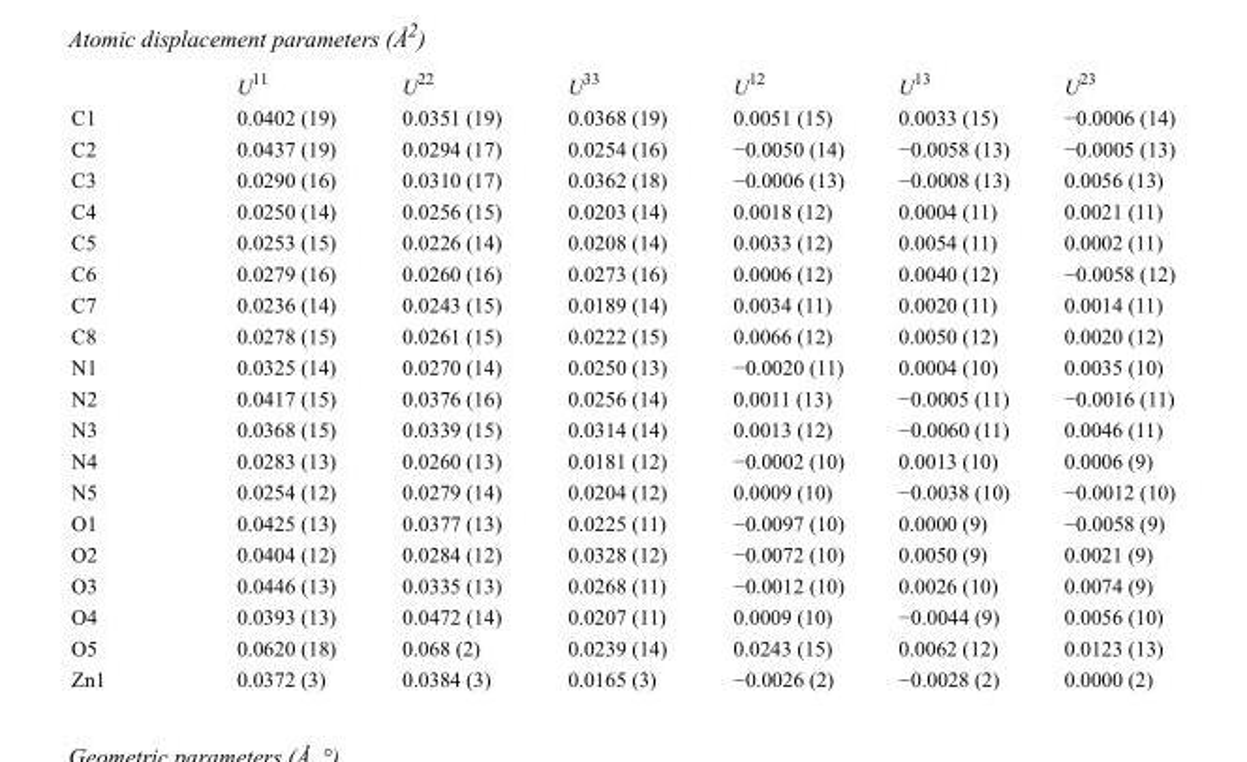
<table><thead><tr><td></td><td>U<sup>11</sup></td><td>U<sup>22</sup></td><td>U<sup>33</sup></td><td>U<sup>12</sup></td><td>U<sup>13</sup></td><td>U<sup>23</sup></td></tr></thead><tbody><tr><td>C1</td><td>0.0402 (19)</td><td>0.0351 (19)</td><td>0.0368 (19)</td><td>0.0051 (15)</td><td>0.0033 (15)</td><td>−0.0006 (14)</td></tr><tr><td>C2</td><td>0.0437 (19)</td><td>0.0294 (17)</td><td>0.0254 (16)</td><td>−0.0050 (14)</td><td>−0.0058 (13)</td><td>−0.0005 (13)</td></tr><tr><td>C3</td><td>0.0290 (16)</td><td>0.0310 (17)</td><td>0.0362 (18)</td><td>−0.0006 (13)</td><td>−0.0008 (13)</td><td>0.0056 (13)</td></tr><tr><td>C4</td><td>0.0250 (14)</td><td>0.0256 (15)</td><td>0.0203 (14)</td><td>0.0018 (12)</td><td>0.0004 (11)</td><td>0.0021 (11)</td></tr><tr><td>C5</td><td>0.0253 (15)</td><td>0.0226 (14)</td><td>0.0208 (14)</td><td>0.0033 (12)</td><td>0.0054 (11)</td><td>0.0002 (11)</td></tr><tr><td>C6</td><td>0.0279 (16)</td><td>0.0260 (16)</td><td>0.0273 (16)</td><td>0.0006 (12)</td><td>0.0040 (12)</td><td>−0.0058 (12)</td></tr><tr><td>C7</td><td>0.0236 (14)</td><td>0.0243 (15)</td><td>0.0189 (14)</td><td>0.0034 (11)</td><td>0.0020 (11)</td><td>0.0014 (11)</td></tr><tr><td>C8</td><td>0.0278 (15)</td><td>0.0261 (15)</td><td>0.0222 (15)</td><td>0.0066 (12)</td><td>0.0050 (12)</td><td>0.0020 (12)</td></tr><tr><td>N1</td><td>0.0325 (14)</td><td>0.0270 (14)</td><td>0.0250 (13)</td><td>−0.0020 (11)</td><td>0.0004 (10)</td><td>0.0035 (10)</td></tr><tr><td>N2</td><td>0.0417 (15)</td><td>0.0376 (16)</td><td>0.0256 (14)</td><td>0.0011 (13)</td><td>−0.0005 (11)</td><td>−0.0016 (11)</td></tr><tr><td>N3</td><td>0.0368 (15)</td><td>0.0339 (15)</td><td>0.0314 (14)</td><td>0.0013 (12)</td><td>−0.0060 (11)</td><td>0.0046 (11)</td></tr><tr><td>N4</td><td>0.0283 (13)</td><td>0.0260 (13)</td><td>0.0181 (12)</td><td>−0.0002 (10)</td><td>0.0013 (10)</td><td>0.0006 (9)</td></tr><tr><td>N5</td><td>0.0254 (12)</td><td>0.0279 (14)</td><td>0.0204 (12)</td><td>0.0009 (10)</td><td>−0.0038 (10)</td><td>−0.0012 (10)</td></tr><tr><td>O1</td><td>0.0425 (13)</td><td>0.0377 (13)</td><td>0.0225 (11)</td><td>−0.0097 (10)</td><td>0.0000 (9)</td><td>−0.0058 (9)</td></tr><tr><td>O2</td><td>0.0404 (12)</td><td>0.0284 (12)</td><td>0.0328 (12)</td><td>−0.0072 (10)</td><td>0.0050 (9)</td><td>0.0021 (9)</td></tr><tr><td>O3</td><td>0.0446 (13)</td><td>0.0335 (13)</td><td>0.0268 (11)</td><td>−0.0012 (10)</td><td>0.0026 (10)</td><td>0.0074 (9)</td></tr><tr><td>O4</td><td>0.0393 (13)</td><td>0.0472 (14)</td><td>0.0207 (11)</td><td>0.0009 (10)</td><td>−0.0044 (9)</td><td>0.0056 (10)</td></tr><tr><td>O5</td><td>0.0620 (18)</td><td>0.068 (2)</td><td>0.0239 (14)</td><td>0.0243 (15)</td><td>0.0062 (12)</td><td>0.0123 (13)</td></tr><tr><td>Zn1</td><td>0.0372 (3)</td><td>0.0384 (3)</td><td>0.0165 (3)</td><td>−0.0026 (2)</td><td>−0.0028 (2)</td><td>0.0000 (2)</td></tr></tbody></table>